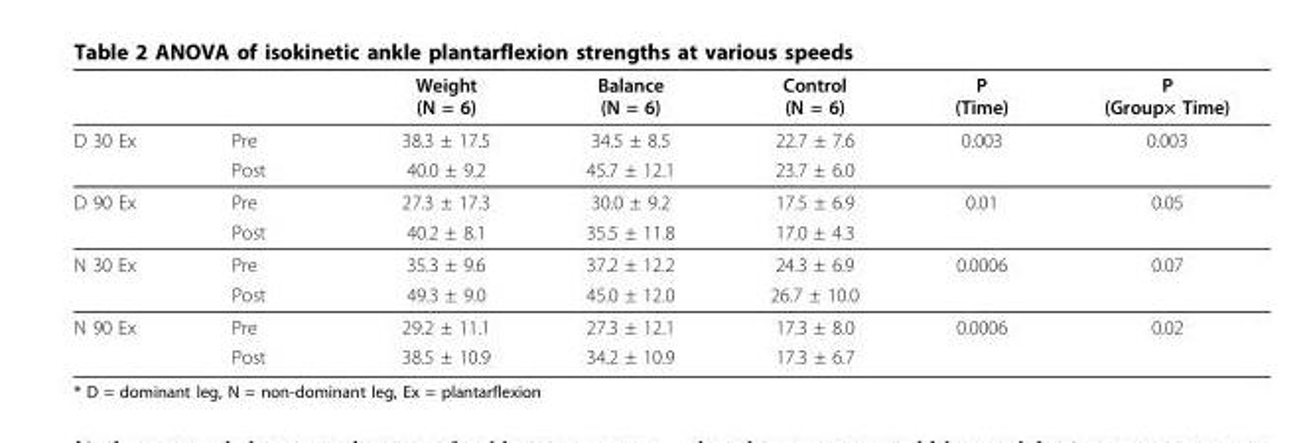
<table><thead><tr><td></td><td></td><td>Weight (N = 6)</td><td>Balance (N = 6)</td><td>Control (N = 6)</td><td>P (Time)</td><td>P (Group× Time)</td></tr></thead><tbody><tr><td rowspan="2">D 30 Ex</td><td>Pre</td><td>38.3 ± 17.5</td><td>34.5 ± 8.5</td><td>22.7 ± 7.6</td><td>0.003</td><td>0.003</td></tr><tr><td>Post</td><td>40.0 ± 9.2</td><td>45.7 ± 12.1</td><td>23.7 ± 6.0</td><td></td><td></td></tr><tr><td rowspan="2">D 90 Ex</td><td>Pre</td><td>27.3 ± 17.3</td><td>30.0 ± 9.2</td><td>17.5 ± 6.9</td><td>0.01</td><td>0.05</td></tr><tr><td>Post</td><td>40.2 ± 8.1</td><td>35.5 ± 11.8</td><td>17.0 ± 4.3</td><td></td><td></td></tr><tr><td rowspan="2">N 30 Ex</td><td>Pre</td><td>35.3 ± 9.6</td><td>37.2 ± 12.2</td><td>24.3 ± 6.9</td><td>0.0006</td><td>0.07</td></tr><tr><td>Post</td><td>49.3 ± 9.0</td><td>45.0 ± 12.0</td><td>26.7 ± 10.0</td><td></td><td></td></tr><tr><td rowspan="2">N 90 Ex</td><td>Pre</td><td>29.2 ± 11.1</td><td>27.3 ± 12.1</td><td>17.3 ± 8.0</td><td>0.0006</td><td>0.02</td></tr><tr><td>Post</td><td>38.5 ± 10.9</td><td>34.2 ± 10.9</td><td>17.3 ± 6.7</td><td></td><td></td></tr></tbody></table>